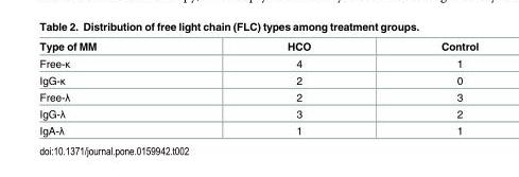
<table><thead><tr><td>Type of MM</td><td>HCO</td><td>Control</td></tr></thead><tbody><tr><td>Free-κ</td><td>4</td><td>1</td></tr><tr><td>IgG-κ</td><td>2</td><td>0</td></tr><tr><td>Free-λ</td><td>2</td><td>3</td></tr><tr><td>IgG-λ</td><td>3</td><td>2</td></tr><tr><td>IgA-λ</td><td>1</td><td>1</td></tr></tbody></table>